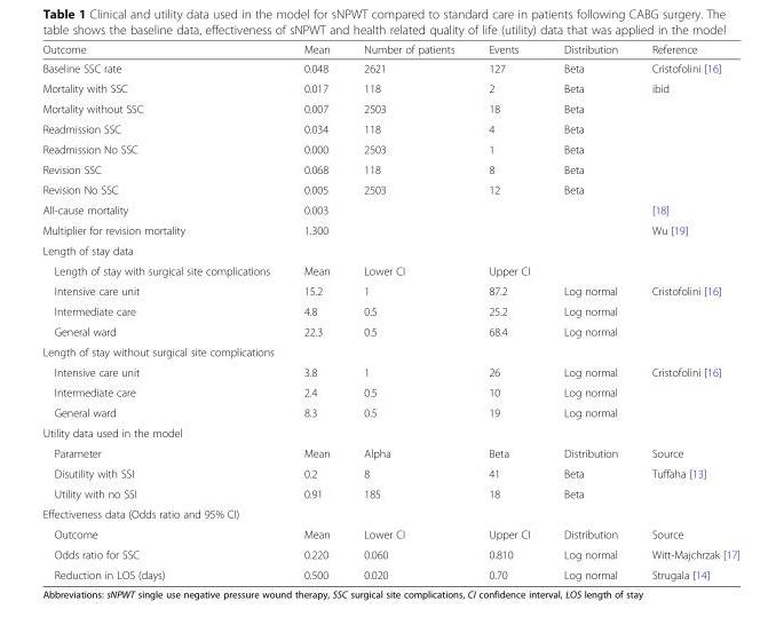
<table><thead><tr><td>Outcome</td><td>Mean</td><td>Number of patients</td><td>Events</td><td>Distribution</td><td>Reference</td></tr></thead><tbody><tr><td>Baseline SSC rate</td><td>0.048</td><td>2621</td><td>127</td><td>Beta</td><td>Cristofolini [16]</td></tr><tr><td>Mortality with SSC</td><td>0.017</td><td>118</td><td>2</td><td>Beta</td><td rowspan="6">ibid</td></tr><tr><td>Mortality without SSC</td><td>0.007</td><td>2503</td><td>18</td><td>Beta</td></tr><tr><td>Readmission SSC</td><td>0.034</td><td>118</td><td>4</td><td>Beta</td></tr><tr><td>Readmission No SSC</td><td>0.000</td><td>2503</td><td>1</td><td>Beta</td></tr><tr><td>Revision SSC</td><td>0.068</td><td>118</td><td>8</td><td>Beta</td></tr><tr><td>Revision No SSC</td><td>0.005</td><td>2503</td><td>12</td><td>Beta</td></tr><tr><td>All-cause mortality</td><td>0.003</td><td></td><td></td><td></td><td>[18]</td></tr><tr><td>Multiplier for revision mortality</td><td>1.300</td><td></td><td></td><td></td><td>Wu [19]</td></tr><tr><td colspan="6">Length of stay data</td></tr><tr><td>Length of stay with surgical site complications</td><td>Mean</td><td>Lower CI</td><td>Upper CI</td><td></td><td></td></tr><tr><td>Intensive care unit</td><td>15.2</td><td>1</td><td>87.2</td><td>Log normal</td><td rowspan="3">Cristofolini [16]</td></tr><tr><td>Intermediate care</td><td>4.8</td><td>0.5</td><td>25.2</td><td>Log normal</td></tr><tr><td>General ward</td><td>22.3</td><td>0.5</td><td>68.4</td><td>Log normal</td></tr><tr><td colspan="6">Length of stay without surgical site complications</td></tr><tr><td>Intensive care unit</td><td>3.8</td><td>1</td><td>26</td><td>Log normal</td><td rowspan="3">Cristofolini [16]</td></tr><tr><td>Intermediate care</td><td>2.4</td><td>0.5</td><td>10</td><td>Log normal</td></tr><tr><td>General ward</td><td>8.3</td><td>0.5</td><td>19</td><td>Log normal</td></tr><tr><td colspan="6">Utility data used in the model</td></tr><tr><td>Parameter</td><td>Mean</td><td>Alpha</td><td>Beta</td><td>Distribution</td><td>Source</td></tr><tr><td>Disutility with SSI</td><td>0.2</td><td>8</td><td>41</td><td>Beta</td><td rowspan="2">Tuffaha [13]</td></tr><tr><td>Utility with no SSI</td><td>0.91</td><td>185</td><td>18</td><td>Beta</td></tr><tr><td colspan="6">Effectiveness data (Odds ratio and 95% CI)</td></tr><tr><td>Outcome</td><td>Mean</td><td>Lower CI</td><td>Upper CI</td><td>Distribution</td><td>Source</td></tr><tr><td>Odds ratio for SSC</td><td>0.220</td><td>0.060</td><td>0.810</td><td>Log normal</td><td>Witt-Majchrzak [17]</td></tr><tr><td>Reduction in LOS (days)</td><td>0.500</td><td>0.020</td><td>0.70</td><td>Log normal</td><td>Strugala [14]</td></tr></tbody></table>